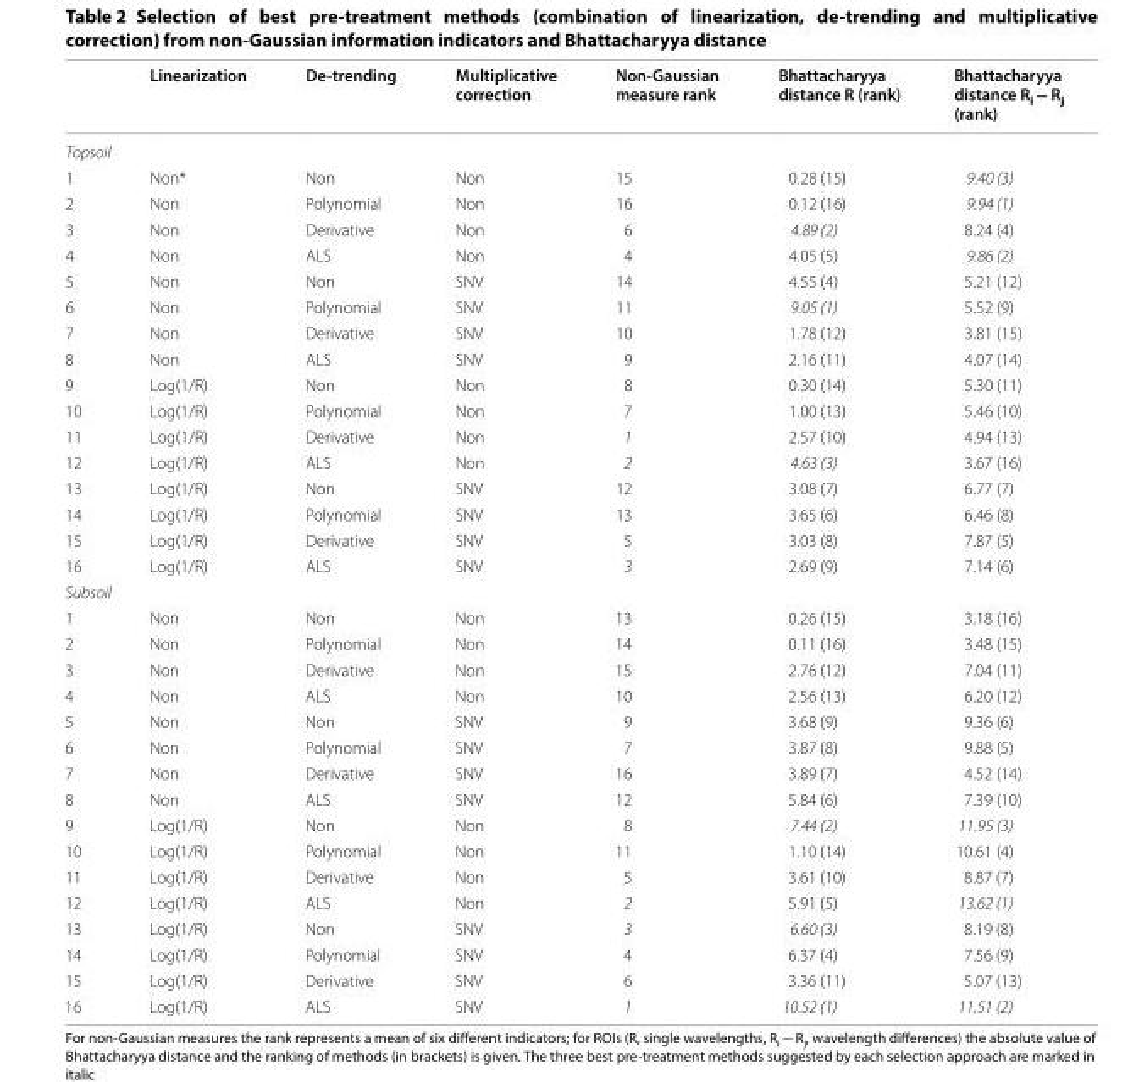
<table><thead><tr><td></td><td>Linearization</td><td>De-trending</td><td>Multiplicative correction</td><td>Non-Gaussian measure rank</td><td>Bhattacharyya distance R (rank)</td><td>Bhattacharyya distance R<sub>i</sub> − R<sub>j</sub> (rank)</td></tr></thead><tbody><tr><td colspan="7">Topsoil</td></tr><tr><td>1</td><td>Non*</td><td>Non</td><td>Non</td><td>15</td><td>0.28 (15)</td><td>9.40 (3)</td></tr><tr><td>2</td><td>Non</td><td>Polynomial</td><td>Non</td><td>16</td><td>0.12 (16)</td><td>9.94 (1)</td></tr><tr><td>3</td><td>Non</td><td>Derivative</td><td>Non</td><td>6</td><td>4.89 (2)</td><td>8.24 (4)</td></tr><tr><td>4</td><td>Non</td><td>ALS</td><td>Non</td><td>4</td><td>4.05 (5)</td><td>9.86 (2)</td></tr><tr><td>5</td><td>Non</td><td>Non</td><td>SNV</td><td>14</td><td>4.55 (4)</td><td>5.21 (12)</td></tr><tr><td>6</td><td>Non</td><td>Polynomial</td><td>SNV</td><td>11</td><td>9.05 (1)</td><td>5.52 (9)</td></tr><tr><td>7</td><td>Non</td><td>Derivative</td><td>SNV</td><td>10</td><td>1.78 (12)</td><td>3.81 (15)</td></tr><tr><td>8</td><td>Non</td><td>ALS</td><td>SNV</td><td>9</td><td>2.16 (11)</td><td>4.07 (14)</td></tr><tr><td>9</td><td>Log(1/R)</td><td>Non</td><td>Non</td><td>8</td><td>0.30 (14)</td><td>5.30 (11)</td></tr><tr><td>10</td><td>Log(1/R)</td><td>Polynomial</td><td>Non</td><td>7</td><td>1.00 (13)</td><td>5.46 (10)</td></tr><tr><td>11</td><td>Log(1/R)</td><td>Derivative</td><td>Non</td><td>1</td><td>2.57 (10)</td><td>4.94 (13)</td></tr><tr><td>12</td><td>Log(1/R)</td><td>ALS</td><td>Non</td><td>2</td><td>4.63 (3)</td><td>3.67 (16)</td></tr><tr><td>13</td><td>Log(1/R)</td><td>Non</td><td>SNV</td><td>12</td><td>3.08 (7)</td><td>6.77 (7)</td></tr><tr><td>14</td><td>Log(1/R)</td><td>Polynomial</td><td>SNV</td><td>13</td><td>3.65 (6)</td><td>6.46 (8)</td></tr><tr><td>15</td><td>Log(1/R)</td><td>Derivative</td><td>SNV</td><td>5</td><td>3.03 (8)</td><td>7.87 (5)</td></tr><tr><td>16</td><td>Log(1/R)</td><td>ALS</td><td>SNV</td><td>3</td><td>2.69 (9)</td><td>7.14 (6)</td></tr><tr><td colspan="7">Subsoil</td></tr><tr><td>1</td><td>Non</td><td>Non</td><td>Non</td><td>13</td><td>0.26 (15)</td><td>3.18 (16)</td></tr><tr><td>2</td><td>Non</td><td>Polynomial</td><td>Non</td><td>14</td><td>0.11 (16)</td><td>3.48 (15)</td></tr><tr><td>3</td><td>Non</td><td>Derivative</td><td>Non</td><td>15</td><td>2.76 (12)</td><td>7.04 (11)</td></tr><tr><td>4</td><td>Non</td><td>ALS</td><td>Non</td><td>10</td><td>2.56 (13)</td><td>6.20 (12)</td></tr><tr><td>5</td><td>Non</td><td>Non</td><td>SNV</td><td>9</td><td>3.68 (9)</td><td>9.36 (6)</td></tr><tr><td>6</td><td>Non</td><td>Polynomial</td><td>SNV</td><td>7</td><td>3.87 (8)</td><td>9.88 (5)</td></tr><tr><td>7</td><td>Non</td><td>Derivative</td><td>SNV</td><td>16</td><td>3.89 (7)</td><td>4.52 (14)</td></tr><tr><td>8</td><td>Non</td><td>ALS</td><td>SNV</td><td>12</td><td>5.84 (6)</td><td>7.39 (10)</td></tr><tr><td>9</td><td>Log(1/R)</td><td>Non</td><td>Non</td><td>8</td><td>7.44 (2)</td><td>11.95 (3)</td></tr><tr><td>10</td><td>Log(1/R)</td><td>Polynomial</td><td>Non</td><td>11</td><td>1.10 (14)</td><td>10.61 (4)</td></tr><tr><td>11</td><td>Log(1/R)</td><td>Derivative</td><td>Non</td><td>5</td><td>3.61 (10)</td><td>8.87 (7)</td></tr><tr><td>12</td><td>Log(1/R)</td><td>ALS</td><td>Non</td><td>2</td><td>5.91 (5)</td><td>13.62 (1)</td></tr><tr><td>13</td><td>Log(1/R)</td><td>Non</td><td>SNV</td><td>3</td><td>6.60 (3)</td><td>8.19 (8)</td></tr><tr><td>14</td><td>Log(1/R)</td><td>Polynomial</td><td>SNV</td><td>4</td><td>6.37 (4)</td><td>7.56 (9)</td></tr><tr><td>15</td><td>Log(1/R)</td><td>Derivative</td><td>SNV</td><td>6</td><td>3.36 (11)</td><td>5.07 (13)</td></tr><tr><td>16</td><td>Log(1/R)</td><td>ALS</td><td>SNV</td><td>1</td><td>10.52 (1)</td><td>11.51 (2)</td></tr></tbody></table>